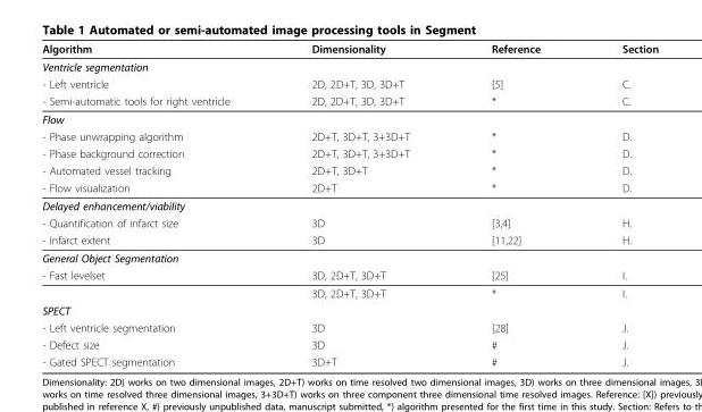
<table><thead><tr><td>Algorithm</td><td>Dimensionality</td><td>Reference</td><td>Section</td></tr></thead><tbody><tr><td colspan="4">Ventricle segmentation</td></tr><tr><td>- Left ventricle</td><td>2D, 2D+T, 3D, 3D+T</td><td>[5]</td><td>C.</td></tr><tr><td>- Semi-automatic tools for right ventricle</td><td>2D, 2D+T, 3D, 3D+T</td><td>*</td><td>C.</td></tr><tr><td colspan="4">Flow</td></tr><tr><td>- Phase unwrapping algorithm</td><td>2D+T, 3D+T, 3+3D+T</td><td>*</td><td>D.</td></tr><tr><td>- Phase background correction</td><td>2D+T, 3D+T, 3+3D+T</td><td>*</td><td>D.</td></tr><tr><td>- Automated vessel tracking</td><td>2D+T, 3D+T</td><td>*</td><td>D.</td></tr><tr><td>- Flow visualization</td><td>2D+T</td><td>*</td><td>D.</td></tr><tr><td colspan="4">Delayed enhancement/viability</td></tr><tr><td>- Quantification of infarct size</td><td>3D</td><td>[3,4]</td><td>H.</td></tr><tr><td>- Infarct extent</td><td>3D</td><td>[11,22]</td><td>H.</td></tr><tr><td colspan="4">General Object Segmentation</td></tr><tr><td rowspan="2">- Fast levelset</td><td>3D, 2D+T, 3D+T</td><td>[25]</td><td>I.</td></tr><tr><td>3D, 2D+T, 3D+T</td><td>*</td><td>I.</td></tr><tr><td colspan="4">SPECT</td></tr><tr><td>- Left ventricle segmentation</td><td>3D</td><td>[28]</td><td>J.</td></tr><tr><td>- Defect size</td><td>3D</td><td>#</td><td>J.</td></tr><tr><td>- Gated SPECT segmentation</td><td>3D+T</td><td>#</td><td>J.</td></tr></tbody></table>